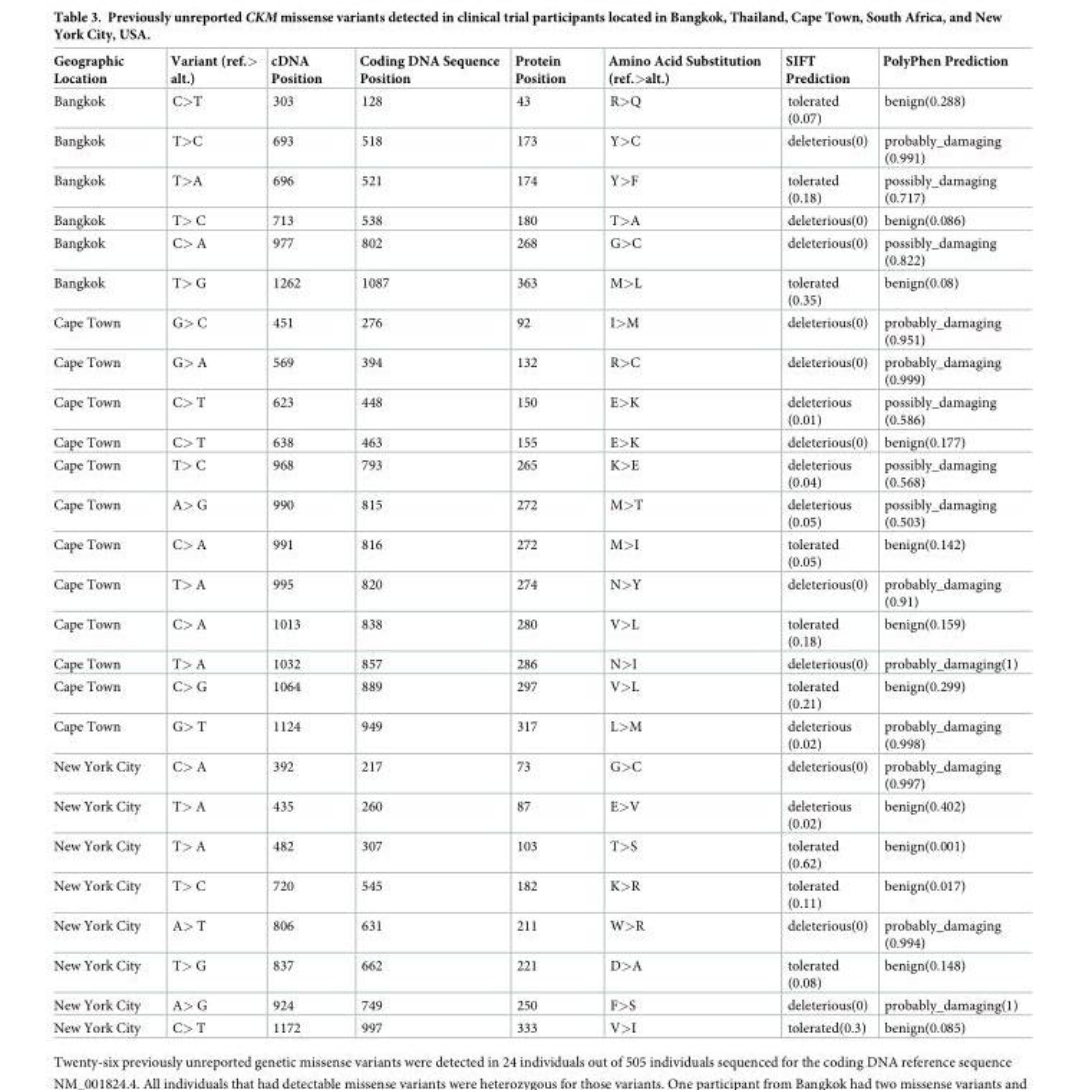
<table><thead><tr><td>Geographic Location</td><td>Variant (ref.&gt; alt.)</td><td>cDNA Position</td><td>Coding DNA Sequence Position</td><td>Protein Position</td><td>Amino Acid Substitution (ref.&gt;alt.)</td><td>SIFT Prediction</td><td>PolyPhen Prediction</td></tr></thead><tbody><tr><td>Bangkok</td><td>C&gt;T</td><td>303</td><td>128</td><td>43</td><td>R&gt;Q</td><td>tolerated (0.07)</td><td>benign(0.288)</td></tr><tr><td>Bangkok</td><td>T&gt;C</td><td>693</td><td>518</td><td>173</td><td>Y&gt;C</td><td>deleterious(0)</td><td>probably_damaging (0.991)</td></tr><tr><td>Bangkok</td><td>T&gt;A</td><td>696</td><td>521</td><td>174</td><td>Y&gt;F</td><td>tolerated (0.18)</td><td>possibly_damaging (0.717)</td></tr><tr><td>Bangkok</td><td>T&gt; C</td><td>713</td><td>538</td><td>180</td><td>T&gt;A</td><td>deleterious(0)</td><td>benign(0.086)</td></tr><tr><td>Bangkok</td><td>C&gt; A</td><td>977</td><td>802</td><td>268</td><td>G&gt;C</td><td>deleterious(0)</td><td>possibly_damaging (0.822)</td></tr><tr><td>Bangkok</td><td>T&gt; G</td><td>1262</td><td>1087</td><td>363</td><td>M&gt;L</td><td>tolerated (0.35)</td><td>benign(0.08)</td></tr><tr><td>Cape Town</td><td>G&gt; C</td><td>451</td><td>276</td><td>92</td><td>I&gt;M</td><td>deleterious(0)</td><td>probably_damaging (0.951)</td></tr><tr><td>Cape Town</td><td>G&gt; A</td><td>569</td><td>394</td><td>132</td><td>R&gt;C</td><td>deleterious(0)</td><td>probably_damaging (0.999)</td></tr><tr><td>Cape Town</td><td>C&gt; T</td><td>623</td><td>448</td><td>150</td><td>E&gt;K</td><td>deleterious (0.01)</td><td>possibly_damaging (0.586)</td></tr><tr><td>Cape Town</td><td>C&gt; T</td><td>638</td><td>463</td><td>155</td><td>E&gt;K</td><td>deleterious(0)</td><td>benign(0.177)</td></tr><tr><td>Cape Town</td><td>T&gt; C</td><td>968</td><td>793</td><td>265</td><td>K&gt;E</td><td>deleterious (0.04)</td><td>possibly_damaging (0.568)</td></tr><tr><td>Cape Town</td><td>A&gt; G</td><td>990</td><td>815</td><td>272</td><td>M&gt;T</td><td>deleterious (0.05)</td><td>possibly_damaging (0.503)</td></tr><tr><td>Cape Town</td><td>C&gt; A</td><td>991</td><td>816</td><td>272</td><td>M&gt;I</td><td>tolerated (0.05)</td><td>benign(0.142)</td></tr><tr><td>Cape Town</td><td>T&gt; A</td><td>995</td><td>820</td><td>274</td><td>N&gt;Y</td><td>deleterious(0)</td><td>probably_damaging (0.91)</td></tr><tr><td>Cape Town</td><td>C&gt; A</td><td>1013</td><td>838</td><td>280</td><td>V&gt;L</td><td>tolerated (0.18)</td><td>benign(0.159)</td></tr><tr><td>Cape Town</td><td>T&gt; A</td><td>1032</td><td>857</td><td>286</td><td>N&gt;I</td><td>deleterious(0)</td><td>probably_damaging(1)</td></tr><tr><td>Cape Town</td><td>C&gt; G</td><td>1064</td><td>889</td><td>297</td><td>V&gt;L</td><td>tolerated (0.21)</td><td>benign(0.299)</td></tr><tr><td>Cape Town</td><td>G&gt; T</td><td>1124</td><td>949</td><td>317</td><td>L&gt;M</td><td>deleterious (0.02)</td><td>probably_damaging (0.998)</td></tr><tr><td>New York City</td><td>C&gt; A</td><td>392</td><td>217</td><td>73</td><td>G&gt;C</td><td>deleterious(0)</td><td>probably_damaging (0.997)</td></tr><tr><td>New York City</td><td>T&gt; A</td><td>435</td><td>260</td><td>87</td><td>E&gt;V</td><td>deleterious (0.02)</td><td>benign(0.402)</td></tr><tr><td>New York City</td><td>T&gt; A</td><td>482</td><td>307</td><td>103</td><td>T&gt;S</td><td>tolerated (0.62)</td><td>benign(0.001)</td></tr><tr><td>New York City</td><td>T&gt; C</td><td>720</td><td>545</td><td>182</td><td>K&gt;R</td><td>tolerated (0.11)</td><td>benign(0.017)</td></tr><tr><td>New York City</td><td>A&gt; T</td><td>806</td><td>631</td><td>211</td><td>W&gt;R</td><td>deleterious(0)</td><td>probably_damaging (0.994)</td></tr><tr><td>New York City</td><td>T&gt; G</td><td>837</td><td>662</td><td>221</td><td>D&gt;A</td><td>tolerated (0.08)</td><td>benign(0.148)</td></tr><tr><td>New York City</td><td>A&gt; G</td><td>924</td><td>749</td><td>250</td><td>F&gt;S</td><td>deleterious(0)</td><td>probably_damaging(1)</td></tr><tr><td>New York City</td><td>C&gt; T</td><td>1172</td><td>997</td><td>333</td><td>V&gt;I</td><td>tolerated(0.3)</td><td>benign(0.085)</td></tr></tbody></table>